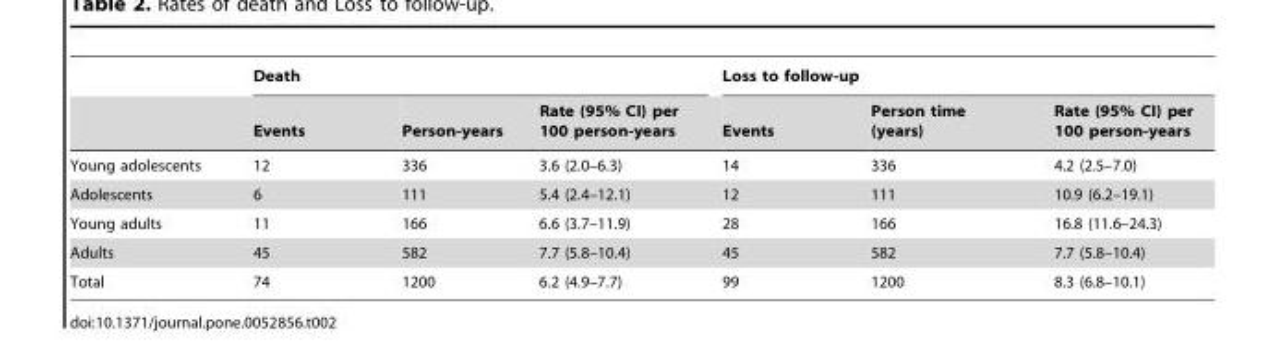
<table><thead><tr><td rowspan="2"></td><td colspan="3">Death</td><td colspan="3">Loss to follow-up</td></tr><tr><td>Events</td><td>Person-years</td><td>Rate (95% CI) per 100 person-years</td><td>Events</td><td>Person time (years)</td><td>Rate (95% CI) per 100 person-years</td></tr></thead><tbody><tr><td>Young adolescents</td><td>12</td><td>336</td><td>3.6 (2.0–6.3)</td><td>14</td><td>336</td><td>4.2 (2.5–7.0)</td></tr><tr><td>Adolescents</td><td>6</td><td>111</td><td>5.4 (2.4–12.1)</td><td>12</td><td>111</td><td>10.9 (6.2–19.1)</td></tr><tr><td>Young adults</td><td>11</td><td>166</td><td>6.6 (3.7–11.9)</td><td>28</td><td>166</td><td>16.8 (11.6–24.3)</td></tr><tr><td>Adults</td><td>45</td><td>582</td><td>7.7 (5.8–10.4)</td><td>45</td><td>582</td><td>7.7 (5.8–10.4)</td></tr><tr><td>Total</td><td>74</td><td>1200</td><td>6.2 (4.9–7.7)</td><td>99</td><td>1200</td><td>8.3 (6.8–10.1)</td></tr></tbody></table>